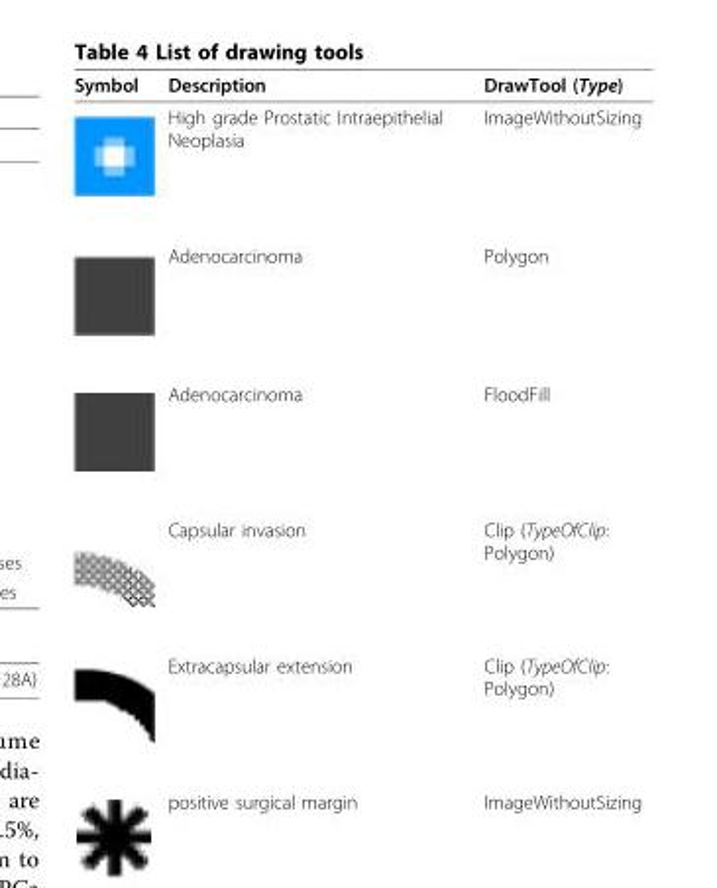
<table><thead><tr><td>Symbol</td><td>Description</td><td>DrawTool (Type)</td></tr></thead><tbody><tr><td></td><td>High grade Prostatic Intraepithelial Neoplasia</td><td>ImageWithoutSizing</td></tr><tr><td></td><td>Adenocarcinoma</td><td>Polygon</td></tr><tr><td></td><td>Adenocarcinoma</td><td>FloodFill</td></tr><tr><td></td><td>Capsular invasion</td><td>Clip (TypeOfClip: Polygon)</td></tr><tr><td></td><td>Extracapsular extension</td><td>Clip (TypeOfClip: Polygon)</td></tr><tr><td></td><td>positive surgical margin</td><td>ImageWithoutSizing</td></tr></tbody></table>